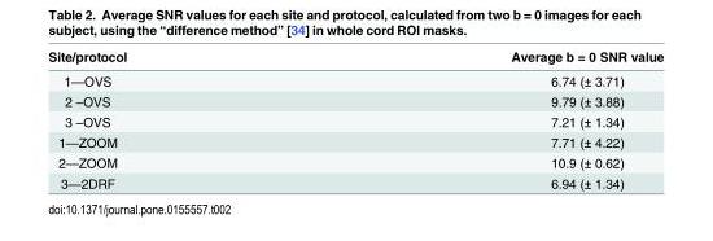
<table><thead><tr><td>Site/protocol</td><td>Average b = 0 SNR value</td></tr></thead><tbody><tr><td>1—OVS</td><td>6.74 (± 3.71)</td></tr><tr><td>2 –OVS</td><td>9.79 (± 3.88)</td></tr><tr><td>3 –OVS</td><td>7.21 (± 1.34)</td></tr><tr><td>1—ZOOM</td><td>7.71 (± 4.22)</td></tr><tr><td>2—ZOOM</td><td>10.9 (± 0.62)</td></tr><tr><td>3—2DRF</td><td>6.94 (± 1.34)</td></tr></tbody></table>